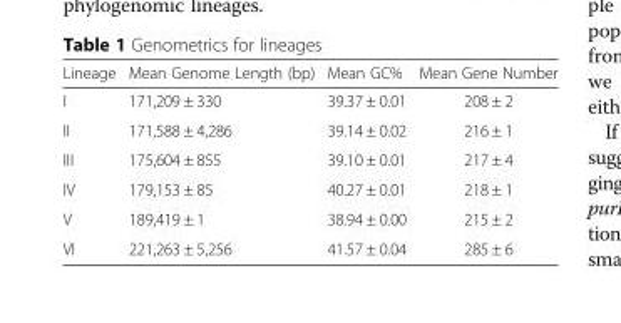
<table><thead><tr><td>Lineage</td><td>Mean Genome Length (bp)</td><td>Mean GC%</td><td>Mean Gene Number</td></tr></thead><tbody><tr><td>I</td><td>171,209 ± 330</td><td>39.37 ± 0.01</td><td>208 ± 2</td></tr><tr><td>II</td><td>171,588 ± 4,286</td><td>39.14 ± 0.02</td><td>216 ± 1</td></tr><tr><td>III</td><td>175,604 ± 855</td><td>39.10 ± 0.01</td><td>217 ± 4</td></tr><tr><td>IV</td><td>179,153 ± 85</td><td>40.27 ± 0.01</td><td>218 ± 1</td></tr><tr><td>V</td><td>189,419 ± 1</td><td>38.94 ± 0.00</td><td>215 ± 2</td></tr><tr><td>VI</td><td>221,263 ± 5,256</td><td>41.57 ± 0.04</td><td>285 ± 6</td></tr></tbody></table>